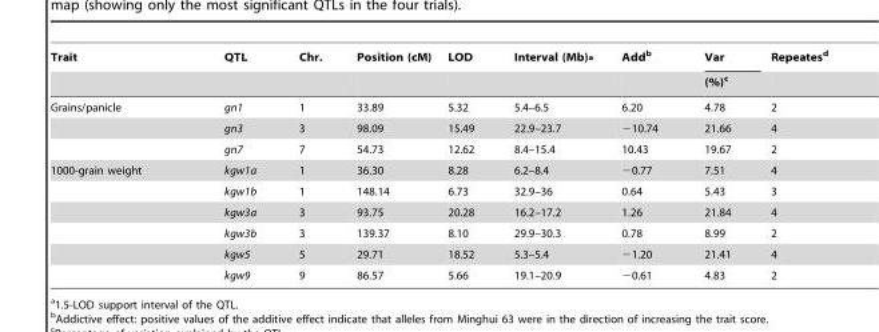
<table><thead><tr><td rowspan="2">Trait</td><td rowspan="2">QTL</td><td rowspan="2">Chr.</td><td rowspan="2">Position (cM)</td><td rowspan="2">LOD</td><td rowspan="2">Interval (Mb)<sup>a</sup></td><td rowspan="2">Add<sup>b</sup></td><td rowspan="2">Var (%)<sup>c</sup></td><td rowspan="2">Repeates<sup>d</sup></td></tr><tr></tr></thead><tbody><tr><td rowspan="3">Grains/panicle</td><td>gn1</td><td>1</td><td>33.89</td><td>5.32</td><td>5.4–6.5</td><td>6.20</td><td>4.78</td><td>2</td></tr><tr><td>gn3</td><td>3</td><td>98.09</td><td>15.49</td><td>22.9–23.7</td><td>−10.74</td><td>21.66</td><td>4</td></tr><tr><td>gn7</td><td>7</td><td>54.73</td><td>12.62</td><td>8.4–15.4</td><td>10.43</td><td>19.67</td><td>2</td></tr><tr><td rowspan="6">1000-grain weight</td><td>kgw1a</td><td>1</td><td>36.30</td><td>8.28</td><td>6.2–8.4</td><td>−0.77</td><td>7.51</td><td>4</td></tr><tr><td>kgw1b</td><td>1</td><td>148.14</td><td>6.73</td><td>32.9–36</td><td>0.64</td><td>5.43</td><td>3</td></tr><tr><td>kgw3a</td><td>3</td><td>93.75</td><td>20.28</td><td>16.2–17.2</td><td>1.26</td><td>21.84</td><td>4</td></tr><tr><td>kgw3b</td><td>3</td><td>139.37</td><td>8.10</td><td>29.9–30.3</td><td>0.78</td><td>8.99</td><td>2</td></tr><tr><td>kgw5</td><td>5</td><td>29.71</td><td>18.52</td><td>5.3–5.4</td><td>−1.20</td><td>21.41</td><td>4</td></tr><tr><td>kgw9</td><td>9</td><td>86.57</td><td>5.66</td><td>19.1–20.9</td><td>−0.61</td><td>4.83</td><td>2</td></tr></tbody></table>